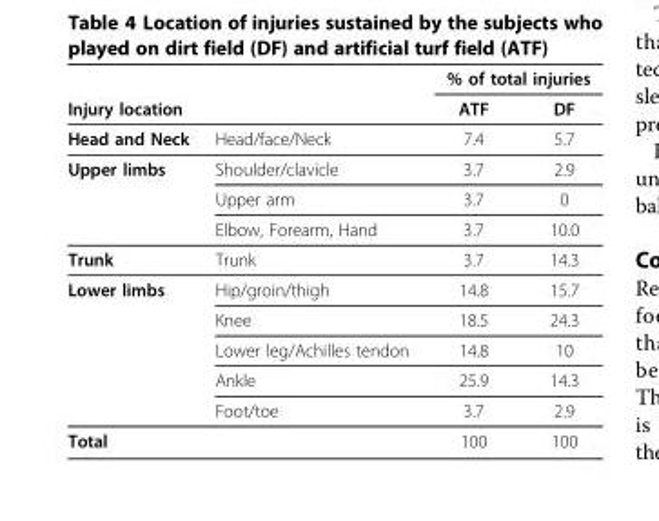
<table><thead><tr><td rowspan="2">Injury location</td><td rowspan="2"></td><td colspan="2">% of total injuries</td></tr><tr><td>ATF</td><td>DF</td></tr></thead><tbody><tr><td>Head and Neck</td><td>Head/face/Neck</td><td>7.4</td><td>5.7</td></tr><tr><td rowspan="3">Upper limbs</td><td>Shoulder/clavicle</td><td>3.7</td><td>2.9</td></tr><tr><td>Upper arm</td><td>3.7</td><td>0</td></tr><tr><td>Elbow, Forearm, Hand</td><td>3.7</td><td>10.0</td></tr><tr><td>Trunk</td><td>Trunk</td><td>3.7</td><td>14.3</td></tr><tr><td rowspan="5">Lower limbs</td><td>Hip/groin/thigh</td><td>14.8</td><td>15.7</td></tr><tr><td>Knee</td><td>18.5</td><td>24.3</td></tr><tr><td>Lower leg/Achilles tendon</td><td>14.8</td><td>10</td></tr><tr><td>Ankle</td><td>25.9</td><td>14.3</td></tr><tr><td>Foot/toe</td><td>3.7</td><td>2.9</td></tr><tr><td>Total</td><td></td><td>100</td><td>100</td></tr></tbody></table>